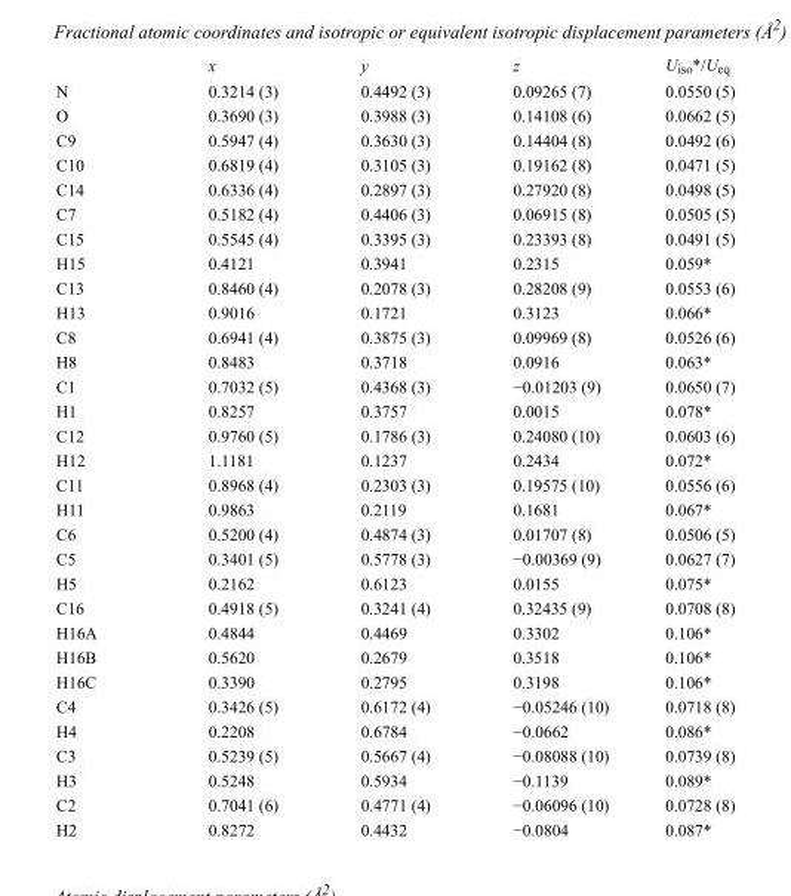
<table><thead><tr><td></td><td>x</td><td>y</td><td>z</td><td>U<sub>iso</sub>*/U<sub>eq</sub></td></tr></thead><tbody><tr><td>N</td><td>0.3214 (3)</td><td>0.4492 (3)</td><td>0.09265 (7)</td><td>0.0550 (5)</td></tr><tr><td>O</td><td>0.3690 (3)</td><td>0.3988 (3)</td><td>0.14108 (6)</td><td>0.0662 (5)</td></tr><tr><td>C9</td><td>0.5947 (4)</td><td>0.3630 (3)</td><td>0.14404 (8)</td><td>0.0492 (6)</td></tr><tr><td>C10</td><td>0.6819 (4)</td><td>0.3105 (3)</td><td>0.19162 (8)</td><td>0.0471 (5)</td></tr><tr><td>C14</td><td>0.6336 (4)</td><td>0.2897 (3)</td><td>0.27920 (8)</td><td>0.0498 (5)</td></tr><tr><td>C7</td><td>0.5182 (4)</td><td>0.4406 (3)</td><td>0.06915 (8)</td><td>0.0505 (5)</td></tr><tr><td>C15</td><td>0.5545 (4)</td><td>0.3395 (3)</td><td>0.23393 (8)</td><td>0.0491 (5)</td></tr><tr><td>H15</td><td>0.4121</td><td>0.3941</td><td>0.2315</td><td>0.059*</td></tr><tr><td>C13</td><td>0.8460 (4)</td><td>0.2078 (3)</td><td>0.28208 (9)</td><td>0.0553 (6)</td></tr><tr><td>H13</td><td>0.9016</td><td>0.1721</td><td>0.3123</td><td>0.066*</td></tr><tr><td>C8</td><td>0.6941 (4)</td><td>0.3875 (3)</td><td>0.09969 (8)</td><td>0.0526 (6)</td></tr><tr><td>H8</td><td>0.8483</td><td>0.3718</td><td>0.0916</td><td>0.063*</td></tr><tr><td>C1</td><td>0.7032 (5)</td><td>0.4368 (3)</td><td>−0.01203 (9)</td><td>0.0650 (7)</td></tr><tr><td>H1</td><td>0.8257</td><td>0.3757</td><td>0.0015</td><td>0.078*</td></tr><tr><td>C12</td><td>0.9760 (5)</td><td>0.1786 (3)</td><td>0.24080 (10)</td><td>0.0603 (6)</td></tr><tr><td>H12</td><td>1.1181</td><td>0.1237</td><td>0.2434</td><td>0.072*</td></tr><tr><td>C11</td><td>0.8968 (4)</td><td>0.2303 (3)</td><td>0.19575 (10)</td><td>0.0556 (6)</td></tr><tr><td>H11</td><td>0.9863</td><td>0.2119</td><td>0.1681</td><td>0.067*</td></tr><tr><td>C6</td><td>0.5200 (4)</td><td>0.4874 (3)</td><td>0.01707 (8)</td><td>0.0506 (5)</td></tr><tr><td>C5</td><td>0.3401 (5)</td><td>0.5778 (3)</td><td>−0.00369 (9)</td><td>0.0627 (7)</td></tr><tr><td>H5</td><td>0.2162</td><td>0.6123</td><td>0.0155</td><td>0.075*</td></tr><tr><td>C16</td><td>0.4918 (5)</td><td>0.3241 (4)</td><td>0.32435 (9)</td><td>0.0708 (8)</td></tr><tr><td>H16A</td><td>0.4844</td><td>0.4469</td><td>0.3302</td><td>0.106*</td></tr><tr><td>H16B</td><td>0.5620</td><td>0.2679</td><td>0.3518</td><td>0.106*</td></tr><tr><td>H16C</td><td>0.3390</td><td>0.2795</td><td>0.3198</td><td>0.106*</td></tr><tr><td>C4</td><td>0.3426 (5)</td><td>0.6172 (4)</td><td>−0.05246 (10)</td><td>0.0718 (8)</td></tr><tr><td>H4</td><td>0.2208</td><td>0.6784</td><td>−0.0662</td><td>0.086*</td></tr><tr><td>C3</td><td>0.5239 (5)</td><td>0.5667 (4)</td><td>−0.08088 (10)</td><td>0.0739 (8)</td></tr><tr><td>H3</td><td>0.5248</td><td>0.5934</td><td>−0.1139</td><td>0.089*</td></tr><tr><td>C2</td><td>0.7041 (6)</td><td>0.4771 (4)</td><td>−0.06096 (10)</td><td>0.0728 (8)</td></tr><tr><td>H2</td><td>0.8272</td><td>0.4432</td><td>−0.0804</td><td>0.087*</td></tr></tbody></table>